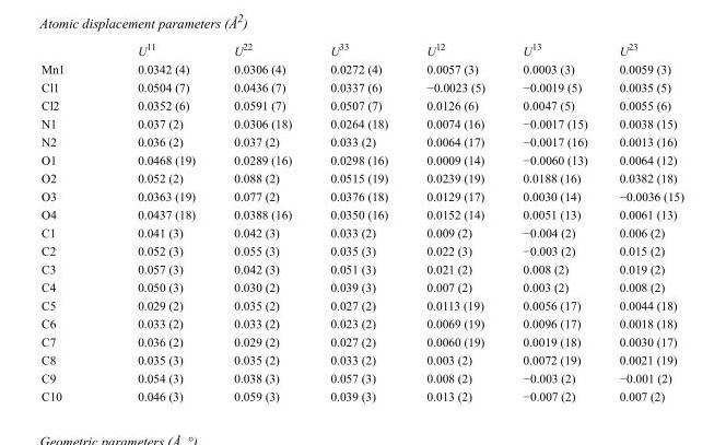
<table><thead><tr><td></td><td>U<sup>11</sup></td><td>U<sup>22</sup></td><td>U<sup>33</sup></td><td>U<sup>12</sup></td><td>U<sup>13</sup></td><td>U<sup>23</sup></td></tr></thead><tbody><tr><td>Mn1</td><td>0.0342 (4)</td><td>0.0306 (4)</td><td>0.0272 (4)</td><td>0.0057 (3)</td><td>0.0003 (3)</td><td>0.0059 (3)</td></tr><tr><td>Cl1</td><td>0.0504 (7)</td><td>0.0436 (7)</td><td>0.0337 (6)</td><td>−0.0023 (5)</td><td>−0.0019 (5)</td><td>0.0035 (5)</td></tr><tr><td>Cl2</td><td>0.0352 (6)</td><td>0.0591 (7)</td><td>0.0507 (7)</td><td>0.0126 (6)</td><td>0.0047 (5)</td><td>0.0055 (6)</td></tr><tr><td>N1</td><td>0.037 (2)</td><td>0.0306 (18)</td><td>0.0264 (18)</td><td>0.0074 (16)</td><td>−0.0017 (15)</td><td>0.0038 (15)</td></tr><tr><td>N2</td><td>0.036 (2)</td><td>0.037 (2)</td><td>0.033 (2)</td><td>0.0064 (17)</td><td>−0.0017 (16)</td><td>0.0013 (16)</td></tr><tr><td>O1</td><td>0.0468 (19)</td><td>0.0289 (16)</td><td>0.0298 (16)</td><td>0.0009 (14)</td><td>−0.0060 (13)</td><td>0.0064 (12)</td></tr><tr><td>O2</td><td>0.052 (2)</td><td>0.088 (2)</td><td>0.0515 (19)</td><td>0.0239 (19)</td><td>0.0188 (16)</td><td>0.0382 (18)</td></tr><tr><td>O3</td><td>0.0363 (19)</td><td>0.077 (2)</td><td>0.0376 (18)</td><td>0.0129 (17)</td><td>0.0030 (14)</td><td>−0.0036 (15)</td></tr><tr><td>O4</td><td>0.0437 (18)</td><td>0.0388 (16)</td><td>0.0350 (16)</td><td>0.0152 (14)</td><td>0.0051 (13)</td><td>0.0061 (13)</td></tr><tr><td>C1</td><td>0.041 (3)</td><td>0.042 (3)</td><td>0.033 (2)</td><td>0.009 (2)</td><td>−0.004 (2)</td><td>0.006 (2)</td></tr><tr><td>C2</td><td>0.052 (3)</td><td>0.055 (3)</td><td>0.035 (3)</td><td>0.022 (3)</td><td>−0.003 (2)</td><td>0.015 (2)</td></tr><tr><td>C3</td><td>0.057 (3)</td><td>0.042 (3)</td><td>0.051 (3)</td><td>0.021 (2)</td><td>0.008 (2)</td><td>0.019 (2)</td></tr><tr><td>C4</td><td>0.050 (3)</td><td>0.030 (2)</td><td>0.039 (3)</td><td>0.007 (2)</td><td>0.003 (2)</td><td>0.008 (2)</td></tr><tr><td>C5</td><td>0.029 (2)</td><td>0.035 (2)</td><td>0.027 (2)</td><td>0.0113 (19)</td><td>0.0056 (17)</td><td>0.0044 (18)</td></tr><tr><td>C6</td><td>0.033 (2)</td><td>0.033 (2)</td><td>0.023 (2)</td><td>0.0069 (19)</td><td>0.0096 (17)</td><td>0.0018 (18)</td></tr><tr><td>C7</td><td>0.036 (2)</td><td>0.029 (2)</td><td>0.027 (2)</td><td>0.0060 (19)</td><td>0.0019 (18)</td><td>0.0030 (17)</td></tr><tr><td>C8</td><td>0.035 (3)</td><td>0.035 (2)</td><td>0.033 (2)</td><td>0.003 (2)</td><td>0.0072 (19)</td><td>0.0021 (19)</td></tr><tr><td>C9</td><td>0.054 (3)</td><td>0.038 (3)</td><td>0.057 (3)</td><td>0.008 (2)</td><td>−0.003 (2)</td><td>−0.001 (2)</td></tr><tr><td>C10</td><td>0.046 (3)</td><td>0.059 (3)</td><td>0.039 (3)</td><td>0.013 (2)</td><td>−0.007 (2)</td><td>0.007 (2)</td></tr></tbody></table>